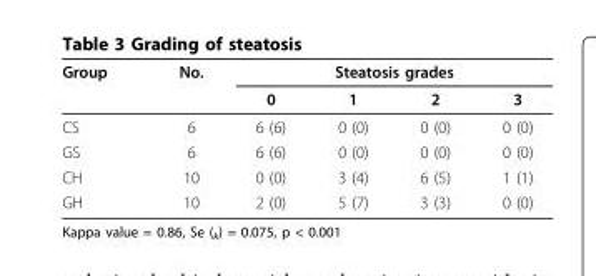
<table><thead><tr><td rowspan="2">Group</td><td rowspan="2">No.</td><td colspan="4">Steatosis grades</td></tr><tr><td>0</td><td>1</td><td>2</td><td>3</td></tr></thead><tbody><tr><td>CS</td><td>6</td><td>6 (6)</td><td>0 (0)</td><td>0 (0)</td><td>0 (0)</td></tr><tr><td>GS</td><td>6</td><td>6 (6)</td><td>0 (0)</td><td>0 (0)</td><td>0 (0)</td></tr><tr><td>CH</td><td>10</td><td>0 (0)</td><td>3 (4)</td><td>6 (5)</td><td>1 (1)</td></tr><tr><td>GH</td><td>10</td><td>2 (0)</td><td>5 (7)</td><td>3 (3)</td><td>0 (0)</td></tr></tbody></table>